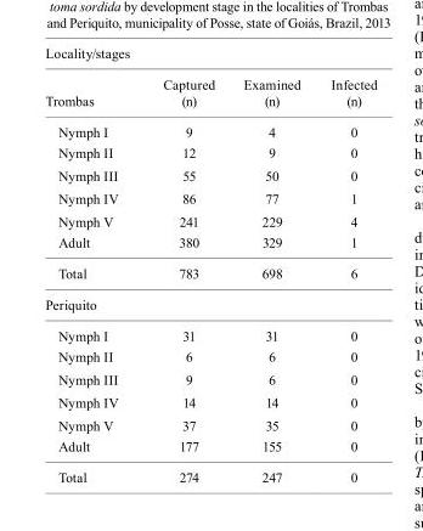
<table><thead><tr><td colspan="4">Locality/stages</td></tr><tr><td>Trombas</td><td>Captured (n)</td><td>Examined (n)</td><td>Infected (n)</td></tr></thead><tbody><tr><td>Nymph I</td><td>9</td><td>4</td><td>0</td></tr><tr><td>Nymph II</td><td>12</td><td>9</td><td>0</td></tr><tr><td>Nymph III</td><td>55</td><td>50</td><td>0</td></tr><tr><td>Nymph IV</td><td>86</td><td>77</td><td>1</td></tr><tr><td>Nymph V</td><td>241</td><td>229</td><td>4</td></tr><tr><td>Adult</td><td>380</td><td>329</td><td>1</td></tr><tr><td>Total</td><td>783</td><td>698</td><td>6</td></tr><tr><td colspan="4">Periquito</td></tr><tr><td>Nymph I</td><td>31</td><td>31</td><td>0</td></tr><tr><td>Nymph II</td><td>6</td><td>6</td><td>0</td></tr><tr><td>Nymph III</td><td>9</td><td>6</td><td>0</td></tr><tr><td>Nymph IV</td><td>14</td><td>14</td><td>0</td></tr><tr><td>Nymph V</td><td>37</td><td>35</td><td>0</td></tr><tr><td>Adult</td><td>177</td><td>155</td><td>0</td></tr><tr><td>Total</td><td>274</td><td>247</td><td>0</td></tr></tbody></table>